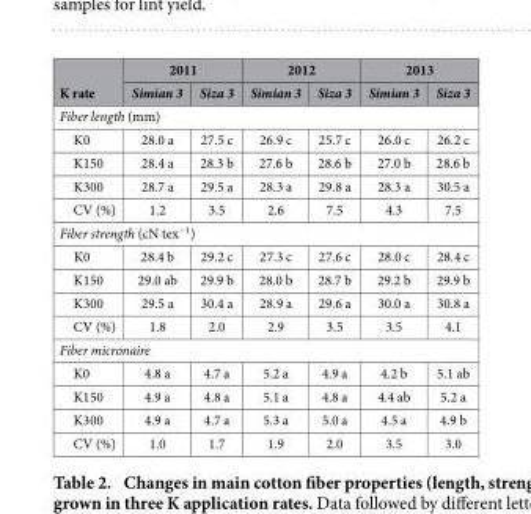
<table><thead><tr><td rowspan="2">K rate</td><td colspan="2">2011</td><td colspan="2">2012</td><td colspan="2">2013</td></tr><tr><td>Simian 3</td><td>Siza 3</td><td>Simian 3</td><td>Siza 3</td><td>Simian 3</td><td>Siza 3</td></tr></thead><tbody><tr><td colspan="7">Fiber length (mm)</td></tr><tr><td>K0</td><td>28.0 a</td><td>27.5 c</td><td>26.9 c</td><td>25.7 c</td><td>26.0 c</td><td>26.2 c</td></tr><tr><td>K150</td><td>28.4 a</td><td>28.3 b</td><td>27.6 b</td><td>28.6 b</td><td>27.0 b</td><td>28.6 b</td></tr><tr><td>K300</td><td>28.7 a</td><td>29.5 a</td><td>28.3 a</td><td>29.8 a</td><td>28.3 a</td><td>30.5 a</td></tr><tr><td>CV (%)</td><td>1.2</td><td>3.5</td><td>2.6</td><td>7.5</td><td>4.3</td><td>7.5</td></tr><tr><td colspan="7">Fiber strength (cN tex<sup>−1</sup>)</td></tr><tr><td>K0</td><td>28.4 b</td><td>29.2 c</td><td>27.3 c</td><td>27.6 c</td><td>28.0 c</td><td>28.4 c</td></tr><tr><td>K150</td><td>29.0 ab</td><td>29.9 b</td><td>28.0 b</td><td>28.7 b</td><td>29.2 b</td><td>29.9 b</td></tr><tr><td>K300</td><td>29.5 a</td><td>30.4 a</td><td>28.9 a</td><td>29.6 a</td><td>30.0 a</td><td>30.8 a</td></tr><tr><td>CV (%)</td><td>1.8</td><td>2.0</td><td>2.9</td><td>3.5</td><td>3.5</td><td>4.1</td></tr><tr><td colspan="7">Fiber micronaire</td></tr><tr><td>K0</td><td>4.8 a</td><td>4.7 a</td><td>5.2 a</td><td>4.9 a</td><td>4.2 b</td><td>5.1 ab</td></tr><tr><td>K150</td><td>4.9 a</td><td>4.8 a</td><td>5.1 a</td><td>4.8 a</td><td>4.4 ab</td><td>5.2 a</td></tr><tr><td>K300</td><td>4.9 a</td><td>4.7 a</td><td>5.3 a</td><td>5.0 a</td><td>4.5 a</td><td>4.9 b</td></tr><tr><td>CV (%)</td><td>1.0</td><td>1.7</td><td>1.9</td><td>2.0</td><td>3.5</td><td>3.0</td></tr></tbody></table>